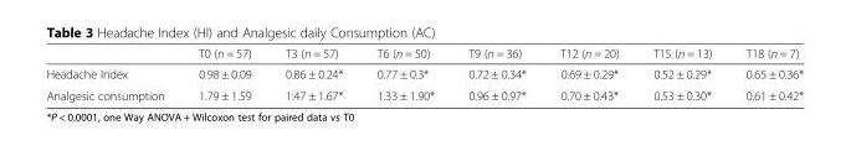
<table><thead><tr><td></td><td>T0 (n = 57)</td><td>T3 (n = 57)</td><td>T6 (n = 50)</td><td>T9 (n = 36)</td><td>T12 (n = 20)</td><td>T15 (n = 13)</td><td>T18 (n = 7)</td></tr></thead><tbody><tr><td>Headache Index</td><td>0.98 ± 0.09</td><td>0.86 ± 0.24*</td><td>0.77 ± 0.3*</td><td>0.72 ± 0.34*</td><td>0.69 ± 0.29*</td><td>0.52 ± 0.29*</td><td>0.65 ± 0.36*</td></tr><tr><td>Analgesic consumption</td><td>1.79 ± 1.59</td><td>1.47 ± 1.67*</td><td>1.33 ± 1.90*</td><td>0.96 ± 0.97*</td><td>0.70 ± 0.43*</td><td>0.53 ± 0.30*</td><td>0.61 ± 0.42*</td></tr></tbody></table>